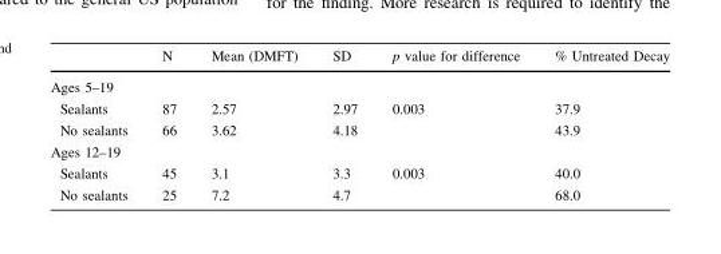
<table><thead><tr><td></td><td>N</td><td>Mean (DMFT)</td><td>SD</td><td>p value for difference</td><td>% Untreated Decay</td></tr></thead><tbody><tr><td colspan="6">Ages 5–19</td></tr><tr><td>Sealants</td><td>87</td><td>2.57</td><td>2.97</td><td rowspan="2">0.003</td><td>37.9</td></tr><tr><td>No sealants</td><td>66</td><td>3.62</td><td>4.18</td><td>43.9</td></tr><tr><td colspan="6">Ages 12–19</td></tr><tr><td>Sealants</td><td>45</td><td>3.1</td><td>3.3</td><td rowspan="2">0.003</td><td>40.0</td></tr><tr><td>No sealants</td><td>25</td><td>7.2</td><td>4.7</td><td>68.0</td></tr></tbody></table>